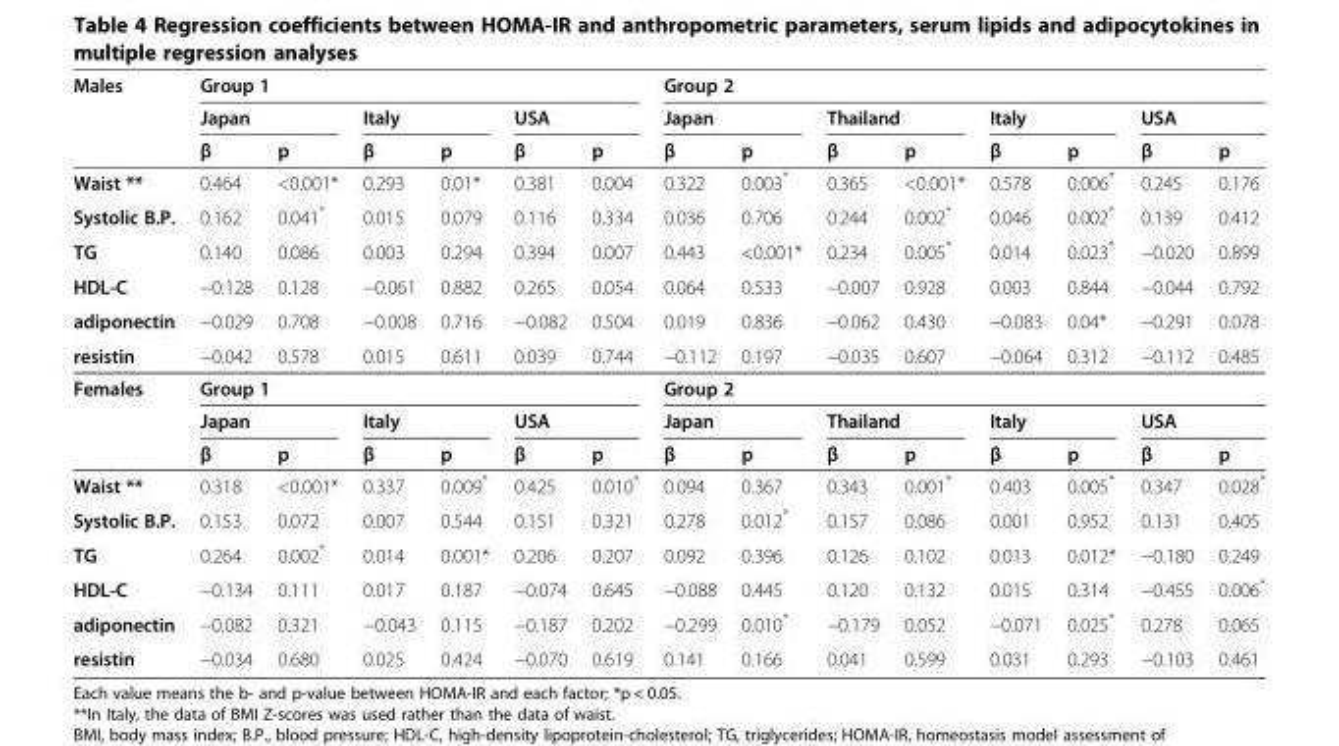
<table><thead><tr><td rowspan="3">Males</td><td colspan="6">Group 1</td><td colspan="8">Group 2</td></tr><tr><td colspan="2">Japan</td><td colspan="2">Italy</td><td colspan="2">USA</td><td colspan="2">Japan</td><td colspan="2">Thailand</td><td colspan="2">Italy</td><td colspan="2">USA</td></tr><tr><td>β</td><td>p</td><td>β</td><td>p</td><td>β</td><td>p</td><td>β</td><td>p</td><td>β</td><td>p</td><td>β</td><td>p</td><td>β</td><td>p</td></tr></thead><tbody><tr><td>Waist **</td><td>0.464</td><td>&lt;0.001*</td><td>0.293</td><td>0.01*</td><td>0.381</td><td>0.004</td><td>0.322</td><td>0.003*</td><td>0.365</td><td>&lt;0.001*</td><td>0.578</td><td>0.006*</td><td>0.245</td><td>0.176</td></tr><tr><td>Systolic B.P.</td><td>0.162</td><td>0.041*</td><td>0.015</td><td>0.079</td><td>0.116</td><td>0.334</td><td>0.036</td><td>0.706</td><td>0.244</td><td>0.002*</td><td>0.046</td><td>0.002*</td><td>0.139</td><td>0.412</td></tr><tr><td>TG</td><td>0.140</td><td>0.086</td><td>0.003</td><td>0.294</td><td>0.394</td><td>0.007</td><td>0.443</td><td>&lt;0.001*</td><td>0.234</td><td>0.005*</td><td>0.014</td><td>0.023*</td><td>−0.020</td><td>0.899</td></tr><tr><td>HDL-C</td><td>−0.128</td><td>0.128</td><td>−0.061</td><td>0.882</td><td>0.265</td><td>0.054</td><td>0.064</td><td>0.533</td><td>−0.007</td><td>0.928</td><td>0.003</td><td>0.844</td><td>−0.044</td><td>0.792</td></tr><tr><td>adiponectin</td><td>−0.029</td><td>0.708</td><td>−0.008</td><td>0.716</td><td>−0.082</td><td>0.504</td><td>0.019</td><td>0.836</td><td>−0.062</td><td>0.430</td><td>−0.083</td><td>0.04*</td><td>−0.291</td><td>0.078</td></tr><tr><td>resistin</td><td>−0.042</td><td>0.578</td><td>0.015</td><td>0.611</td><td>0.039</td><td>0.744</td><td>−0.112</td><td>0.197</td><td>−0.035</td><td>0.607</td><td>−0.064</td><td>0.312</td><td>−0.112</td><td>0.485</td></tr><tr><td rowspan="3">Females</td><td colspan="6">Group 1</td><td colspan="8">Group 2</td></tr><tr><td colspan="2">Japan</td><td colspan="2">Italy</td><td colspan="2">USA</td><td colspan="2">Japan</td><td colspan="2">Thailand</td><td colspan="2">Italy</td><td colspan="2">USA</td></tr><tr><td>β</td><td>p</td><td>β</td><td>p</td><td>β</td><td>p</td><td>β</td><td>p</td><td>β</td><td>p</td><td>β</td><td>p</td><td>β</td><td>p</td></tr><tr><td>Waist **</td><td>0.318</td><td>&lt;0.001*</td><td>0.337</td><td>0.009*</td><td>0.425</td><td>0.010*</td><td>0.094</td><td>0.367</td><td>0.343</td><td>0.001*</td><td>0.403</td><td>0.005*</td><td>0.347</td><td>0.028*</td></tr><tr><td>Systolic B.P.</td><td>0.153</td><td>0.072</td><td>0.007</td><td>0.544</td><td>0.151</td><td>0.321</td><td>0.278</td><td>0.012*</td><td>0.157</td><td>0.086</td><td>0.001</td><td>0.952</td><td>0.131</td><td>0.405</td></tr><tr><td>TG</td><td>0.264</td><td>0.002*</td><td>0.014</td><td>0.001*</td><td>0.206</td><td>0.207</td><td>0.092</td><td>0.396</td><td>0.126</td><td>0.102</td><td>0.013</td><td>0.012*</td><td>−0.180</td><td>0.249</td></tr><tr><td>HDL-C</td><td>−0.134</td><td>0.111</td><td>0.017</td><td>0.187</td><td>−0.074</td><td>0.645</td><td>−0.088</td><td>0.445</td><td>0.120</td><td>0.132</td><td>0.015</td><td>0.314</td><td>−0.455</td><td>0.006*</td></tr><tr><td>adiponectin</td><td>−0.082</td><td>0.321</td><td>−0.043</td><td>0.115</td><td>−0.187</td><td>0.202</td><td>−0.299</td><td>0.010*</td><td>−0.179</td><td>0.052</td><td>−0.071</td><td>0.025*</td><td>0.278</td><td>0.065</td></tr><tr><td>resistin</td><td>−0.034</td><td>0.680</td><td>0.025</td><td>0.424</td><td>−0.070</td><td>0.619</td><td>0.141</td><td>0.166</td><td>0.041</td><td>0.599</td><td>0.031</td><td>0.293</td><td>−0.103</td><td>0.461</td></tr></tbody></table>